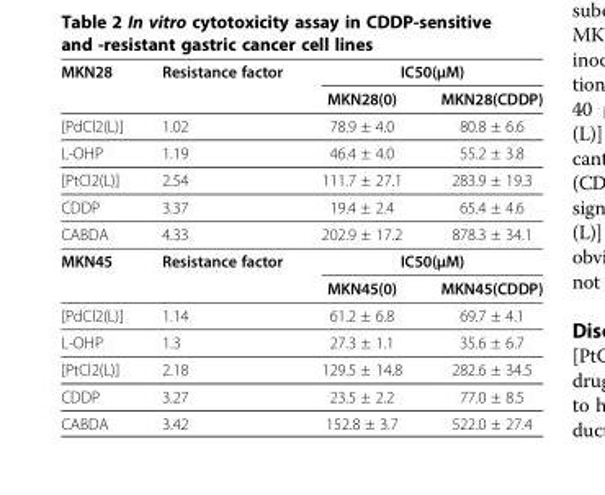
<table><thead><tr><td rowspan="2">MKN28</td><td rowspan="2">Resistance factor</td><td colspan="2">IC50(μM)</td></tr><tr><td>MKN28(0)</td><td>MKN28(CDDP)</td></tr></thead><tbody><tr><td>[PdCl2(L)]</td><td>1.02</td><td>78.9 ± 4.0</td><td>80.8 ± 6.6</td></tr><tr><td>L-OHP</td><td>1.19</td><td>46.4 ± 4.0</td><td>55.2 ± 3.8</td></tr><tr><td>[PtCl2(L)]</td><td>2.54</td><td>111.7 ± 27.1</td><td>283.9 ± 19.3</td></tr><tr><td>CDDP</td><td>3.37</td><td>19.4 ± 2.4</td><td>65.4 ± 4.6</td></tr><tr><td>CABDA</td><td>4.33</td><td>202.9 ± 17.2</td><td>878.3 ± 34.1</td></tr><tr><td rowspan="2">MKN45</td><td>Resistance factor</td><td colspan="2">IC50(μM)</td></tr><tr><td></td><td>MKN45(0)</td><td>MKN45(CDDP)</td></tr><tr><td>[PdCl2(L)]</td><td>1.14</td><td>61.2 ± 6.8</td><td>69.7 ± 4.1</td></tr><tr><td>L-OHP</td><td>1.3</td><td>27.3 ± 1.1</td><td>35.6 ± 6.7</td></tr><tr><td>[PtCl2(L)]</td><td>2.18</td><td>129.5 ± 14.8</td><td>282.6 ± 34.5</td></tr><tr><td>CDDP</td><td>3.27</td><td>23.5 ± 2.2</td><td>77.0 ± 8.5</td></tr><tr><td>CABDA</td><td>3.42</td><td>152.8 ± 3.7</td><td>522.0 ± 27.4</td></tr></tbody></table>